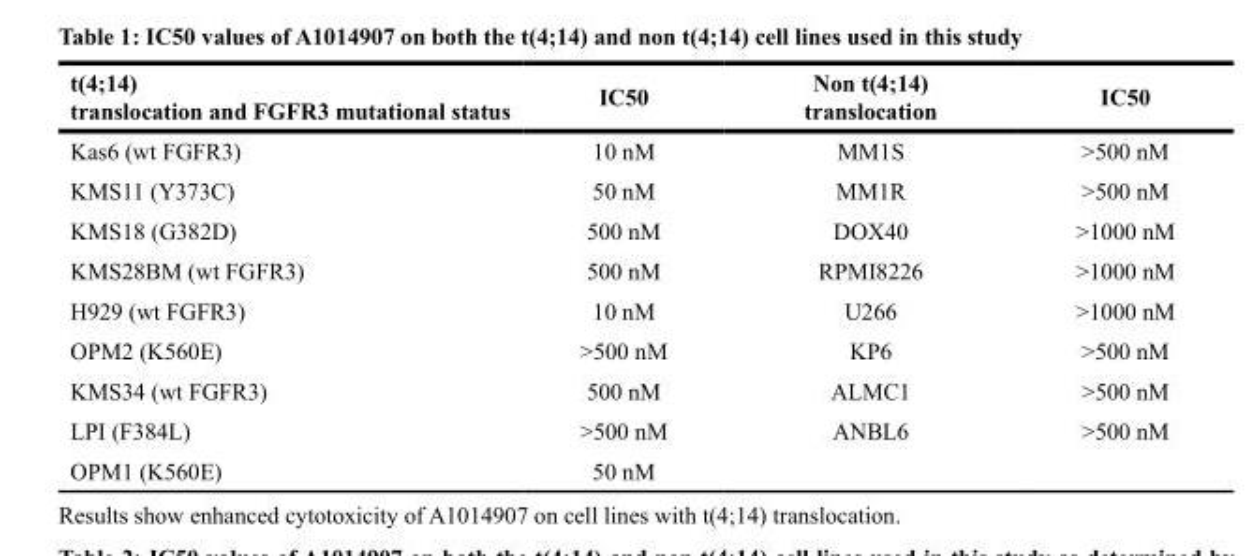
<table><thead><tr><td>t(4;14) translocation and FGFR3 mutational status</td><td>IC50</td><td>Non t(4;14) translocation</td><td>IC50</td></tr></thead><tbody><tr><td>Kas6 (wt FGFR3)</td><td>10 nM</td><td>MM1S</td><td>&gt;500 nM</td></tr><tr><td>KMS11 (Y373C)</td><td>50 nM</td><td>MM1R</td><td>&gt;500 nM</td></tr><tr><td>KMS18 (G382D)</td><td>500 nM</td><td>DOX40</td><td>&gt;1000 nM</td></tr><tr><td>KMS28BM (wt FGFR3)</td><td>500 nM</td><td>RPMI8226</td><td>&gt;1000 nM</td></tr><tr><td>H929 (wt FGFR3)</td><td>10 nM</td><td>U266</td><td>&gt;1000 nM</td></tr><tr><td>OPM2 (K560E)</td><td>&gt;500 nM</td><td>KP6</td><td>&gt;500 nM</td></tr><tr><td>KMS34 (wt FGFR3)</td><td>500 nM</td><td>ALMC1</td><td>&gt;500 nM</td></tr><tr><td>LPI (F384L)</td><td>&gt;500 nM</td><td>ANBL6</td><td>&gt;500 nM</td></tr><tr><td>OPM1 (K560E)</td><td>50 nM</td><td></td><td></td></tr></tbody></table>